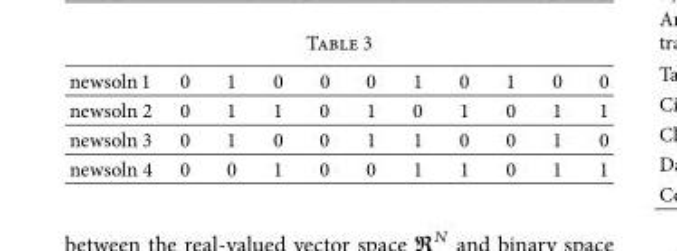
<table><tbody><tr><td>newsoln 1</td><td>0</td><td>1</td><td>0</td><td>0</td><td>0</td><td>1</td><td>0</td><td>1</td><td>0</td><td>0</td></tr><tr><td>newsoln 2</td><td>0</td><td>1</td><td>1</td><td>0</td><td>1</td><td>0</td><td>1</td><td>0</td><td>1</td><td>1</td></tr><tr><td>newsoln 3</td><td>0</td><td>1</td><td>0</td><td>0</td><td>1</td><td>1</td><td>0</td><td>0</td><td>1</td><td>0</td></tr><tr><td>newsoln 4</td><td>0</td><td>0</td><td>1</td><td>0</td><td>0</td><td>1</td><td>1</td><td>0</td><td>1</td><td>1</td></tr></tbody></table>